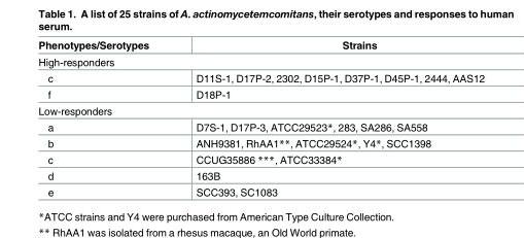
<table><thead><tr><td>Phenotypes/Serotypes</td><td>Strains</td></tr></thead><tbody><tr><td colspan="2">High-responders</td></tr><tr><td>c</td><td>D11S-1, D17P-2, 2302, D15P-1, D37P-1, D45P-1, 2444, AAS12</td></tr><tr><td>f</td><td>D18P-1</td></tr><tr><td colspan="2">Low-responders</td></tr><tr><td>a</td><td>D7S-1, D17P-3, ATCC29523*, 283, SA286, SA558</td></tr><tr><td>b</td><td>ANH9381, RhAA1**, ATCC29524*, Y4*, SCC1398</td></tr><tr><td>c</td><td>CCUG35886 ***, ATCC33384*</td></tr><tr><td>d</td><td>163B</td></tr><tr><td>e</td><td>SCC393, SC1083</td></tr></tbody></table>